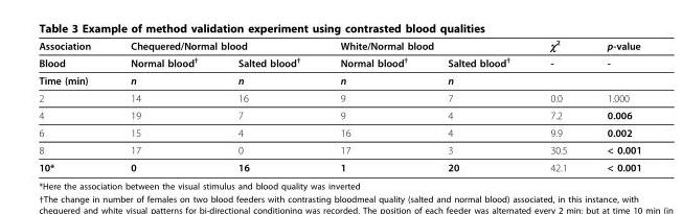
<table><thead><tr><td rowspan="2">Association Blood</td><td colspan="2">Chequered/Normal blood</td><td colspan="2">White/Normal blood</td><td rowspan="2">χ2 -</td><td rowspan="2">p-value -</td></tr><tr><td>Normal blood†</td><td>Salted blood†</td><td>Normal blood†</td><td>Salted blood†</td></tr></thead><tbody><tr><td>Time (min)</td><td>n</td><td>n</td><td>n</td><td>n</td><td></td><td></td></tr><tr><td>2</td><td>14</td><td>16</td><td>9</td><td>7</td><td>0.0</td><td>1.000</td></tr><tr><td>4</td><td>19</td><td>7</td><td>9</td><td>4</td><td>7.2</td><td>0.006</td></tr><tr><td>6</td><td>15</td><td>4</td><td>16</td><td>4</td><td>9.9</td><td>0.002</td></tr><tr><td>8</td><td>17</td><td>0</td><td>17</td><td>3</td><td>30.5</td><td>&lt; 0.001</td></tr><tr><td>10*</td><td>0</td><td>16</td><td>1</td><td>20</td><td>42.1</td><td>&lt; 0.001</td></tr></tbody></table>